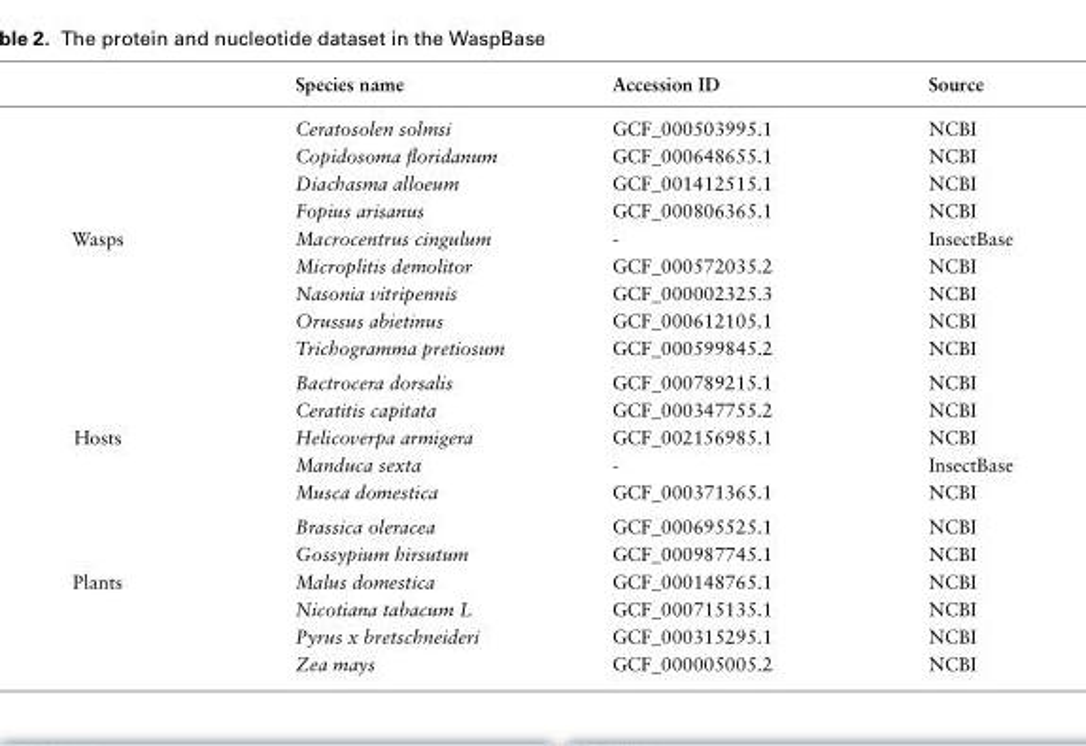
<table><thead><tr><td></td><td>Species name</td><td>Accession ID</td><td>Source</td></tr></thead><tbody><tr><td></td><td>Ceratosolen solmsi</td><td>GCF_000503995.1</td><td>NCBI</td></tr><tr><td></td><td>Copidosoma floridanum</td><td>GCF_000648655.1</td><td>NCBI</td></tr><tr><td></td><td>Diachasma alloeum</td><td>GCF_001412515.1</td><td>NCBI</td></tr><tr><td></td><td>Fopius arisanus</td><td>GCF_000806365.1</td><td>NCBI</td></tr><tr><td rowspan="7">Wasps</td><td>Macrocentrus cingulum</td><td>-</td><td>InsectBase</td></tr><tr><td>Microplitis demolitor</td><td>GCF_000572035.2</td><td>NCBI</td></tr><tr><td>Nasonia vitripennis</td><td>GCF_000002325.3</td><td>NCBI</td></tr><tr><td>Orussus abietinus</td><td>GCF_000612105.1</td><td>NCBI</td></tr><tr><td>Trichogramma pretiosum</td><td>GCF_000599845.2</td><td>NCBI</td></tr><tr><td>Bactrocera dorsalis</td><td>GCF_000789215.1</td><td>NCBI</td></tr><tr><td>Ceratitis capitata</td><td>GCF_000347755.2</td><td>NCBI</td></tr><tr><td rowspan="5">Hosts</td><td>Helicoverpa armigera</td><td>GCF_002156985.1</td><td>NCBI</td></tr><tr><td>Manduca sexta</td><td>-</td><td>InsectBase</td></tr><tr><td>Musca domestica</td><td>GCF_000371365.1</td><td>NCBI</td></tr><tr><td>Brassica oleracea</td><td>GCF_000695525.1</td><td>NCBI</td></tr><tr><td>Gossypium hirsutum</td><td>GCF_000987745.1</td><td>NCBI</td></tr><tr><td rowspan="4">Plants</td><td>Malus domestica</td><td>GCF_000148765.1</td><td>NCBI</td></tr><tr><td>Nicotiana tabacum L</td><td>GCF_000715135.1</td><td>NCBI</td></tr><tr><td>Pyrus x bretschneideri</td><td>GCF_000315295.1</td><td>NCBI</td></tr><tr><td>Zea mays</td><td>GCF_000005005.2</td><td>NCBI</td></tr></tbody></table>